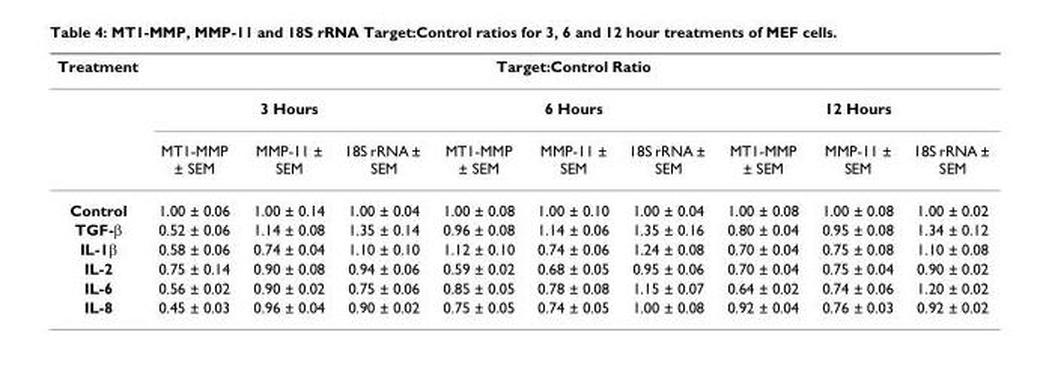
<table><thead><tr><td rowspan="3">Treatment</td><td colspan="9">Target:Control Ratio</td></tr><tr><td colspan="3">3 Hours</td><td colspan="3">6 Hours</td><td colspan="3">12 Hours</td></tr><tr><td>MT1-MMP ± SEM</td><td>MMP-11 ± SEM</td><td>18S rRNA ± SEM</td><td>MT1-MMP ± SEM</td><td>MMP-11 ± SEM</td><td>18S rRNA ± SEM</td><td>MT1-MMP ± SEM</td><td>MMP-11 ± SEM</td><td>18S rRNA ± SEM</td></tr></thead><tbody><tr><td>Control</td><td>1.00 ± 0.06</td><td>1.00 ± 0.14</td><td>1.00 ± 0.04</td><td>1.00 ± 0.08</td><td>1.00 ± 0.10</td><td>1.00 ± 0.04</td><td>1.00 ± 0.08</td><td>1.00 ± 0.08</td><td>1.00 ± 0.02</td></tr><tr><td>TGF-β</td><td>0.52 ± 0.06</td><td>1.14 ± 0.08</td><td>1.35 ± 0.14</td><td>0.96 ± 0.08</td><td>1.14 ± 0.06</td><td>1.35 ± 0.16</td><td>0.80 ± 0.04</td><td>0.95 ± 0.08</td><td>1.34 ± 0.12</td></tr><tr><td>IL-1β</td><td>0.58 ± 0.06</td><td>0.74 ± 0.04</td><td>1.10 ± 0.10</td><td>1.12 ± 0.10</td><td>0.74 ± 0.06</td><td>1.24 ± 0.08</td><td>0.70 ± 0.04</td><td>0.75 ± 0.08</td><td>1.10 ± 0.08</td></tr><tr><td>IL-2</td><td>0.75 ± 0.14</td><td>0.90 ± 0.08</td><td>0.94 ± 0.06</td><td>0.59 ± 0.02</td><td>0.68 ± 0.05</td><td>0.95 ± 0.06</td><td>0.70 ± 0.04</td><td>0.75 ± 0.04</td><td>0.90 ± 0.02</td></tr><tr><td>IL-6</td><td>0.56 ± 0.02</td><td>0.90 ± 0.02</td><td>0.75 ± 0.06</td><td>0.85 ± 0.05</td><td>0.78 ± 0.08</td><td>1.15 ± 0.07</td><td>0.64 ± 0.02</td><td>0.74 ± 0.06</td><td>1.20 ± 0.02</td></tr><tr><td>IL-8</td><td>0.45 ± 0.03</td><td>0.96 ± 0.04</td><td>0.90 ± 0.02</td><td>0.75 ± 0.05</td><td>0.74 ± 0.05</td><td>1.00 ± 0.08</td><td>0.92 ± 0.04</td><td>0.76 ± 0.03</td><td>0.92 ± 0.02</td></tr></tbody></table>